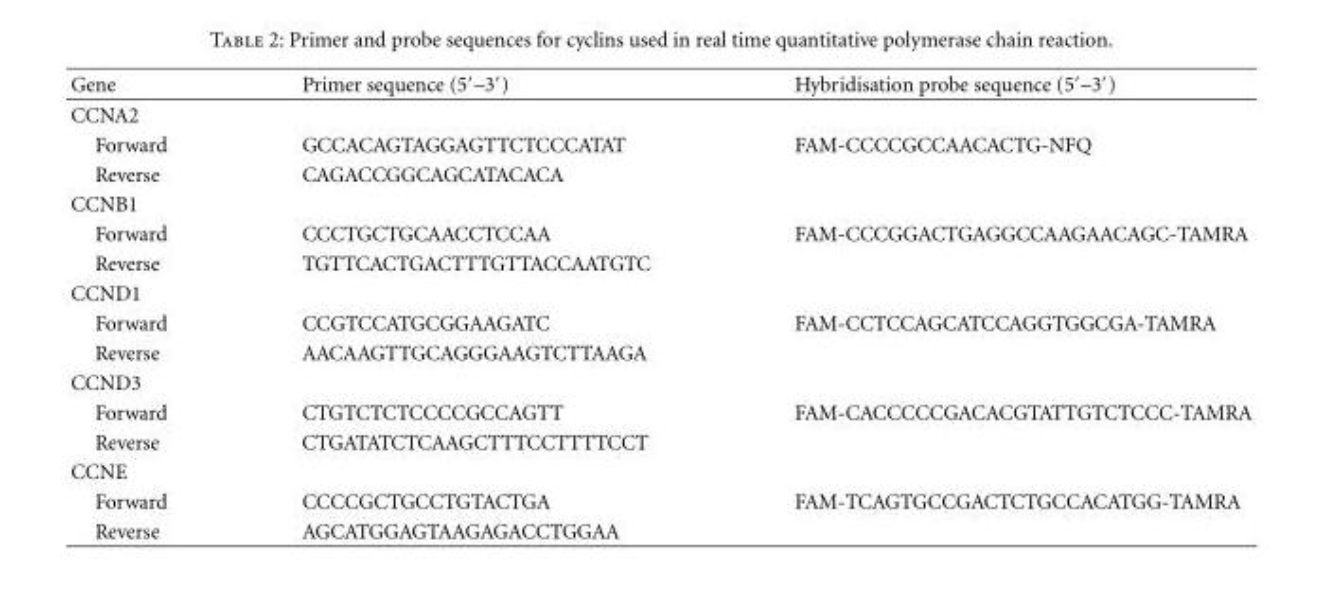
<table><thead><tr><td>Gene</td><td>Primer sequence (5′–3′)</td><td>Hybridisation probe sequence (5′–3′)</td></tr></thead><tbody><tr><td colspan="3">CCNA2</td></tr><tr><td>Forward</td><td>GCCACAGTAGGAGTTCTCCCATAT</td><td>FAM-CCCCGCCAACACTG-NFQ</td></tr><tr><td>Reverse</td><td>CAGACCGGCAGCATACACA</td><td></td></tr><tr><td colspan="3">CCNB1</td></tr><tr><td>Forward</td><td>CCCTGCTGCAACCTCCAA</td><td>FAM-CCCGGACTGAGGCCAAGAACAGC-TAMRA</td></tr><tr><td>Reverse</td><td>TGTTCACTGACTTTGTTACCAATGTC</td><td></td></tr><tr><td colspan="3">CCND1</td></tr><tr><td>Forward</td><td>CCGTCCATGCGGAAGATC</td><td>FAM-CCTCCAGCATCCAGGTGGCGA-TAMRA</td></tr><tr><td>Reverse</td><td>AACAAGTTGCAGGGAAGTCTTAAGA</td><td></td></tr><tr><td colspan="3">CCND3</td></tr><tr><td>Forward</td><td>CTGTCTCTCCCCGCCAGTT</td><td>FAM-CACCCCCGACACGTATTGTCTCCC-TAMRA</td></tr><tr><td>Reverse</td><td>CTGATATCTCAAGCTTTCCTTTTCCT</td><td></td></tr><tr><td colspan="3">CCNE</td></tr><tr><td>Forward</td><td>CCCCGCTGCCTGTACTGA</td><td>FAM-TCAGTGCCGACTCTGCCACATGG-TAMRA</td></tr><tr><td>Reverse</td><td>AGCATGGAGTAAGAGACCTGGAA</td><td></td></tr></tbody></table>